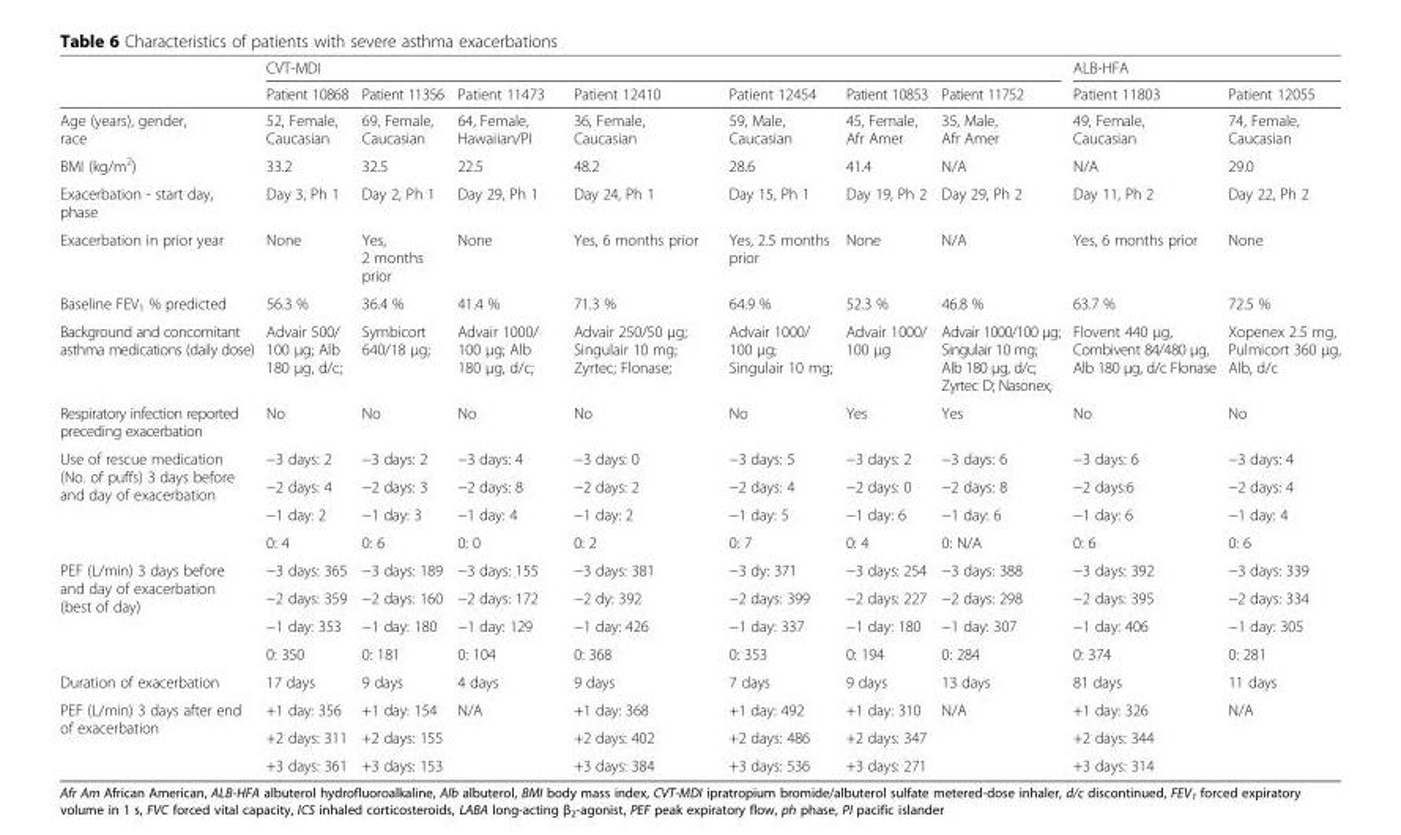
<table><thead><tr><td rowspan="2"></td><td colspan="7">CVT-MDI</td><td colspan="2">ALB-HFA</td></tr><tr><td>Patient 10868</td><td>Patient 11356</td><td>Patient 11473</td><td>Patient 12410</td><td>Patient 12454</td><td>Patient 10853</td><td>Patient 11752</td><td>Patient 11803</td><td>Patient 12055</td></tr></thead><tbody><tr><td>Age (years), gender, race</td><td>52, Female, Caucasian</td><td>69, Female, Caucasian</td><td>64, Female, Hawaiian/PI</td><td>36, Female, Caucasian</td><td>59, Male, Caucasian</td><td>45, Female, Afr Amer</td><td>35, Male, Afr Amer</td><td>49, Female, Caucasian</td><td>74, Female, Caucasian</td></tr><tr><td>BMI (kg/m<sup>2</sup>)</td><td>33.2</td><td>32.5</td><td>22.5</td><td>48.2</td><td>28.6</td><td>41.4</td><td>N/A</td><td>N/A</td><td>29.0</td></tr><tr><td>Exacerbation - start day, phase</td><td>Day 3, Ph 1</td><td>Day 2, Ph 1</td><td>Day 29, Ph 1</td><td>Day 24, Ph 1</td><td>Day 15, Ph 1</td><td>Day 19, Ph 2</td><td>Day 29, Ph 2</td><td>Day 11, Ph 2</td><td>Day 22, Ph 2</td></tr><tr><td>Exacerbation in prior year</td><td>None</td><td>Yes, 2 months prior</td><td>None</td><td>Yes, 6 months prior</td><td>Yes, 2.5 months prior</td><td>None</td><td>N/A</td><td>Yes, 6 months prior</td><td>None</td></tr><tr><td>Baseline FEV<sub>1</sub> % predicted</td><td>56.3 %</td><td>36.4 %</td><td>41.4 %</td><td>71.3 %</td><td>64.9 %</td><td>52.3 %</td><td>46.8 %</td><td>63.7 %</td><td>72.5 %</td></tr><tr><td>Background and concomitant asthma medications (daily dose)</td><td>Advair 500/ 100 μg; Alb 180 μg, d/c;</td><td>Symbicort 640/18 μg;</td><td>Advair 1000/ 100 μg; Alb 180 μg, d/c;</td><td>Advair 250/50 μg; Singulair 10 mg; Zyrtec; Flonase;</td><td>Advair 1000/ 100 μg; Singulair 10 mg;</td><td>Advair 1000/ 100 μg</td><td>Advair 1000/100 μg; Singulair 10 mg; Alb 180 μg, d/c; Zyrtec D; Nasonex;</td><td>Flovent 440 μg, Combivent 84/480 μg, Alb 180 μg, d/c Flonase</td><td>Xopenex 2.5 mg, Pulmicort 360 μg, Alb, d/c</td></tr><tr><td>Respiratory infection reported preceding exacerbation</td><td>No</td><td>No</td><td>No</td><td>No</td><td>No</td><td>Yes</td><td>Yes</td><td>No</td><td>No</td></tr><tr><td rowspan="4">Use of rescue medication (No. of puffs) 3 days before and day of exacerbation</td><td>−3 days: 2</td><td>−3 days: 2</td><td>−3 days: 4</td><td>−3 days: 0</td><td>−3 days: 5</td><td>−3 days: 2</td><td>−3 days: 6</td><td>−3 days: 6</td><td>−3 days: 4</td></tr><tr><td>−2 days: 4</td><td>−2 days: 3</td><td>−2 days: 8</td><td>−2 days: 2</td><td>−2 days: 4</td><td>−2 days: 0</td><td>−2 days: 8</td><td>−2 days:6</td><td>−2 days: 4</td></tr><tr><td>−1 day: 2</td><td>−1 day: 3</td><td>−1 day: 4</td><td>−1 day: 2</td><td>−1 day: 5</td><td>−1 day: 6</td><td>−1 day: 6</td><td>−1 day: 6</td><td>−1 day: 4</td></tr><tr><td>0: 4</td><td>0: 6</td><td>0: 0</td><td>0: 2</td><td>0: 7</td><td>0: 4</td><td>0: N/A</td><td>0: 6</td><td>0: 6</td></tr><tr><td rowspan="4">PEF (L/min) 3 days before and day of exacerbation (best of day)</td><td>−3 days: 365</td><td>−3 days: 189</td><td>−3 days: 155</td><td>−3 days: 381</td><td>−3 dy: 371</td><td>−3 days: 254</td><td>−3 days: 388</td><td>−3 days: 392</td><td>−3 days: 339</td></tr><tr><td>−2 days: 359</td><td>−2 days: 160</td><td>−2 days: 172</td><td>−2 dy: 392</td><td>−2 days: 399</td><td>−2 days: 227</td><td>−2 days: 298</td><td>−2 days: 395</td><td>−2 days: 334</td></tr><tr><td>−1 day: 353</td><td>−1 day: 180</td><td>−1 day: 129</td><td>−1 day: 426</td><td>−1 day: 337</td><td>−1 day: 180</td><td>−1 day: 307</td><td>−1 day: 406</td><td>−1 day: 305</td></tr><tr><td>0: 350</td><td>0: 181</td><td>0: 104</td><td>0: 368</td><td>0: 353</td><td>0: 194</td><td>0: 284</td><td>0: 374</td><td>0: 281</td></tr><tr><td>Duration of exacerbation</td><td>17 days</td><td>9 days</td><td>4 days</td><td>9 days</td><td>7 days</td><td>9 days</td><td>13 days</td><td>81 days</td><td>11 days</td></tr><tr><td rowspan="3">PEF (L/min) 3 days after end of exacerbation</td><td>+1 day: 356</td><td>+1 day: 154</td><td rowspan="3">N/A</td><td>+1 day: 368</td><td>+1 day: 492</td><td>+1 day: 310</td><td rowspan="3">N/A</td><td>+1 day: 326</td><td rowspan="3">N/A</td></tr><tr><td>+2 days: 311</td><td>+2 days: 155</td><td>+2 days: 402</td><td>+2 days: 486</td><td>+2 days: 347</td><td>+2 days: 344</td></tr><tr><td>+3 days: 361</td><td>+3 days: 153</td><td>+3 days: 384</td><td>+3 days: 536</td><td>+3 days: 271</td><td>+3 days: 314</td></tr></tbody></table>